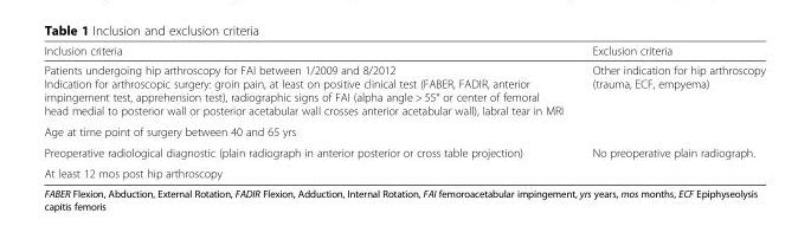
<table><thead><tr><td>Inclusion criteria</td><td>Exclusion criteria</td></tr></thead><tbody><tr><td>Patients undergoing hip arthroscopy for FAI between 1/2009 and 8/2012 Indication for arthroscopic surgery: groin pain, at least on positive clinical test (FABER, FADIR, anterior impingement test, apprehension test), radiographic signs of FAI (alpha angle &gt; 55° or center of femoral head medial to posterior wall or posterior acetabular wall crosses anterior acetabular wall), labral tear in MRI</td><td>Other indication for hip arthroscopy (trauma, ECF, empyema)</td></tr><tr><td colspan="2">Age at time point of surgery between 40 and 65 yrs</td></tr><tr><td>Preoperative radiological diagnostic (plain radiograph in anterior posterior or cross table projection)</td><td>No preoperative plain radiograph.</td></tr><tr><td>At least 12 mos post hip arthroscopy</td><td></td></tr></tbody></table>